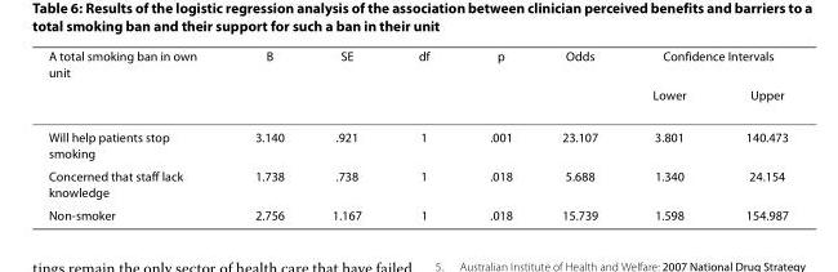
<table><thead><tr><td rowspan="2">A total smoking ban in own unit</td><td rowspan="2">B</td><td rowspan="2">SE</td><td rowspan="2">df</td><td rowspan="2">p</td><td rowspan="2">Odds</td><td colspan="2">Confidence Intervals</td></tr><tr><td>Lower</td><td>Upper</td></tr></thead><tbody><tr><td>Will help patients stop smoking</td><td>3.140</td><td>.921</td><td>1</td><td>.001</td><td>23.107</td><td>3.801</td><td>140.473</td></tr><tr><td>Concerned that staff lack knowledge</td><td>1.738</td><td>.738</td><td>1</td><td>.018</td><td>5.688</td><td>1.340</td><td>24.154</td></tr><tr><td>Non-smoker</td><td>2.756</td><td>1.167</td><td>1</td><td>.018</td><td>15.739</td><td>1.598</td><td>154.987</td></tr></tbody></table>